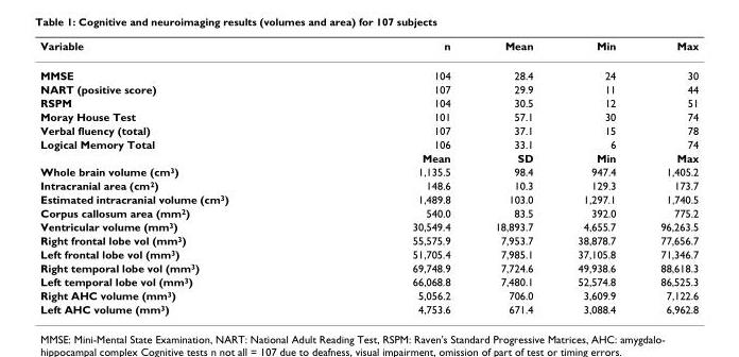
<table><thead><tr><td>Variable</td><td>n</td><td>Mean</td><td>Min</td><td>Max</td></tr></thead><tbody><tr><td>MMSE</td><td>104</td><td>28.4</td><td>24</td><td>30</td></tr><tr><td>NART (positive score)</td><td>107</td><td>29.9</td><td>11</td><td>44</td></tr><tr><td>RSPM</td><td>104</td><td>30.5</td><td>12</td><td>51</td></tr><tr><td>Moray House Test</td><td>101</td><td>57.1</td><td>30</td><td>74</td></tr><tr><td>Verbal fluency (total)</td><td>107</td><td>37.1</td><td>15</td><td>78</td></tr><tr><td rowspan="2">Logical Memory Total</td><td>106</td><td>33.1</td><td>6</td><td>74</td></tr><tr><td>Mean</td><td>SD</td><td>Min</td><td>Max</td></tr><tr><td>Whole brain volume (cm<sup>3</sup>)</td><td>1,135.5</td><td>98.4</td><td>947.4</td><td>1,405.2</td></tr><tr><td>Intracranial area (cm<sup>2</sup>)</td><td>148.6</td><td>10.3</td><td>129.3</td><td>173.7</td></tr><tr><td>Estimated intracranial volume (cm<sup>3</sup>)</td><td>1,489.8</td><td>103.0</td><td>1,297.1</td><td>1,740.5</td></tr><tr><td>Corpus callosum area (mm<sup>2</sup>)</td><td>540.0</td><td>83.5</td><td>392.0</td><td>775.2</td></tr><tr><td>Ventricular volume (mm<sup>3</sup>)</td><td>30,549.4</td><td>18,893.7</td><td>4,655.7</td><td>96,263.5</td></tr><tr><td>Right frontal lobe vol (mm<sup>3</sup>)</td><td>55,575.9</td><td>7,953.7</td><td>38,878.7</td><td>77,656.7</td></tr><tr><td>Left frontal lobe vol (mm<sup>3</sup>)</td><td>51,705.4</td><td>7,985.1</td><td>37,105.8</td><td>71,346.7</td></tr><tr><td>Right temporal lobe vol (mm<sup>3</sup>)</td><td>69,748.9</td><td>7,724.6</td><td>49,938.6</td><td>88,618.3</td></tr><tr><td>Left temporal lobe vol (mm<sup>3</sup>)</td><td>66,068.8</td><td>7,480.1</td><td>52,574.8</td><td>86,525.3</td></tr><tr><td>Right AHC volume (mm<sup>3</sup>)</td><td>5,056.2</td><td>706.0</td><td>3,609.9</td><td>7,122.6</td></tr><tr><td>Left AHC volume (mm<sup>3</sup>)</td><td>4,753.6</td><td>671.4</td><td>3,088.4</td><td>6,962.8</td></tr></tbody></table>